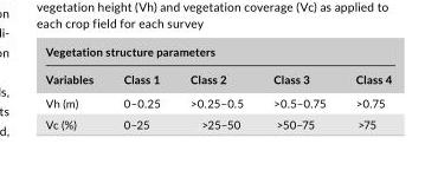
<table><thead><tr><td colspan="5">Vegetation structure parameters</td></tr><tr><td>Variables</td><td>Class 1</td><td>Class 2</td><td>Class 3</td><td>Class 4</td></tr></thead><tbody><tr><td>Vh (m)</td><td>0–0.25</td><td>&gt;0.25–0.5</td><td>&gt;0.5–0.75</td><td>&gt;0.75</td></tr><tr><td>Vc (%)</td><td>0–25</td><td>&gt;25–50</td><td>&gt;50–75</td><td>&gt;75</td></tr></tbody></table>